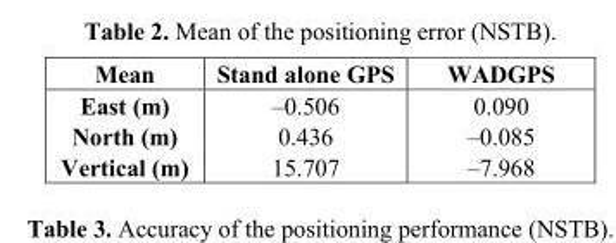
<table><thead><tr><td>Mean</td><td>Stand alone GPS</td><td>WADGPS</td></tr></thead><tbody><tr><td>East (m)</td><td>–0.506</td><td>0.090</td></tr><tr><td>North (m)</td><td>0.436</td><td>–0.085</td></tr><tr><td>Vertical (m)</td><td>15.707</td><td>–7.968</td></tr></tbody></table>